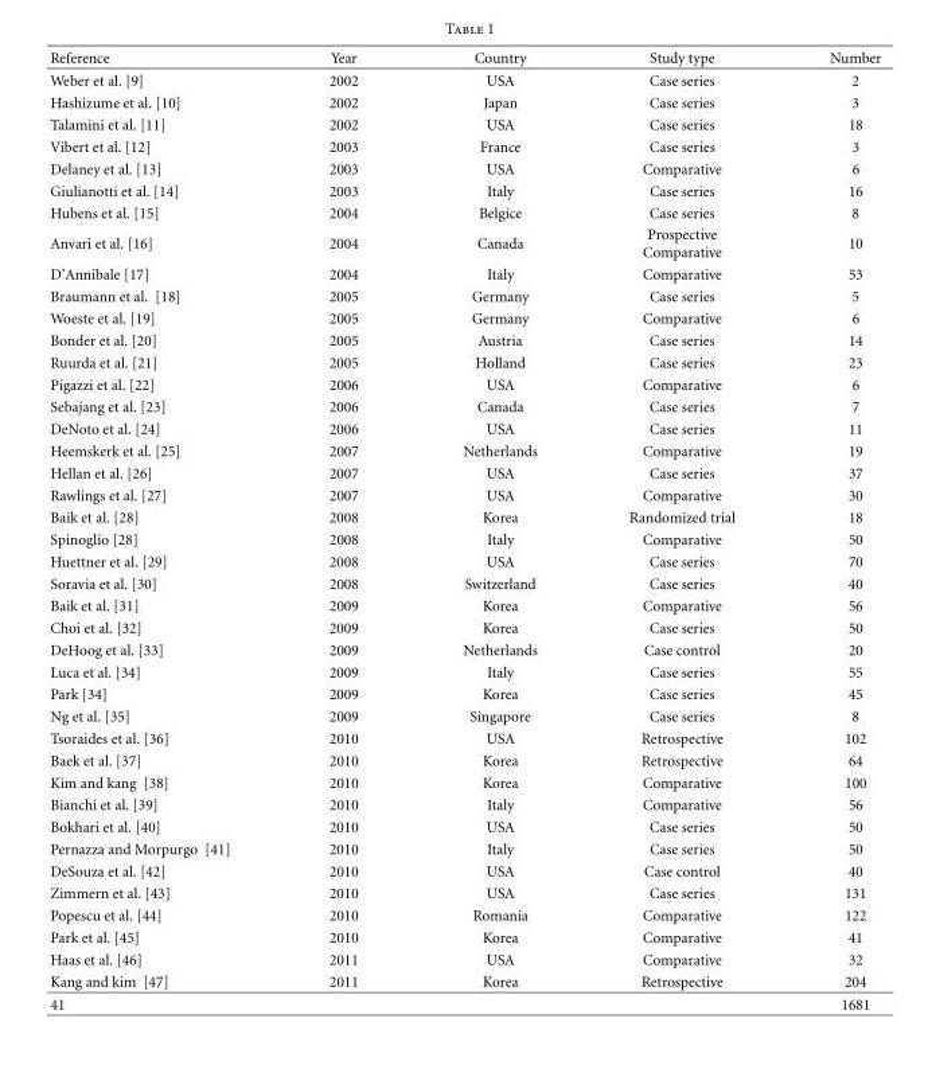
<table><thead><tr><td>Reference</td><td>Year</td><td>Country</td><td>Study type</td><td>Number</td></tr></thead><tbody><tr><td>Weber et al. [9]</td><td>2002</td><td>USA</td><td>Case series</td><td>2</td></tr><tr><td>Hashizume et al. [10]</td><td>2002</td><td>Japan</td><td>Case series</td><td>3</td></tr><tr><td>Talamini et al. [11]</td><td>2002</td><td>USA</td><td>Case series</td><td>18</td></tr><tr><td>Vibert et al. [12]</td><td>2003</td><td>France</td><td>Case series</td><td>3</td></tr><tr><td>Delaney et al. [13]</td><td>2003</td><td>USA</td><td>Comparative</td><td>6</td></tr><tr><td>Giulianotti et al. [14]</td><td>2003</td><td>Italy</td><td>Case series</td><td>16</td></tr><tr><td>Hubens et al. [15]</td><td>2004</td><td>Belgice</td><td>Case series</td><td>8</td></tr><tr><td>Anvari et al. [16]</td><td>2004</td><td>Canada</td><td>Prospective Comparative</td><td>10</td></tr><tr><td>D’Annibale [17]</td><td>2004</td><td>Italy</td><td>Comparative</td><td>53</td></tr><tr><td>Braumann et al. [18]</td><td>2005</td><td>Germany</td><td>Case series</td><td>5</td></tr><tr><td>Woeste et al. [19]</td><td>2005</td><td>Germany</td><td>Comparative</td><td>6</td></tr><tr><td>Bonder et al. [20]</td><td>2005</td><td>Austria</td><td>Case series</td><td>14</td></tr><tr><td>Ruurda et al. [21]</td><td>2005</td><td>Holland</td><td>Case series</td><td>23</td></tr><tr><td>Pigazzi et al. [22]</td><td>2006</td><td>USA</td><td>Comparative</td><td>6</td></tr><tr><td>Sebajang et al. [23]</td><td>2006</td><td>Canada</td><td>Case series</td><td>7</td></tr><tr><td>DeNoto et al. [24]</td><td>2006</td><td>USA</td><td>Case series</td><td>11</td></tr><tr><td>Heemskerk et al. [25]</td><td>2007</td><td>Netherlands</td><td>Comparative</td><td>19</td></tr><tr><td>Hellan et al. [26]</td><td>2007</td><td>USA</td><td>Case series</td><td>37</td></tr><tr><td>Rawlings et al. [27]</td><td>2007</td><td>USA</td><td>Comparative</td><td>30</td></tr><tr><td>Baik et al. [28]</td><td>2008</td><td>Korea</td><td>Randomized trial</td><td>18</td></tr><tr><td>Spinoglio [28]</td><td>2008</td><td>Italy</td><td>Comparative</td><td>50</td></tr><tr><td>Huettner et al. [29]</td><td>2008</td><td>USA</td><td>Case series</td><td>70</td></tr><tr><td>Soravia et al. [30]</td><td>2008</td><td>Switzerland</td><td>Case series</td><td>40</td></tr><tr><td>Baik et al. [31]</td><td>2009</td><td>Korea</td><td>Comparative</td><td>56</td></tr><tr><td>Choi et al. [32]</td><td>2009</td><td>Korea</td><td>Case series</td><td>50</td></tr><tr><td>DeHoog et al. [33]</td><td>2009</td><td>Netherlands</td><td>Case control</td><td>20</td></tr><tr><td>Luca et al. [34]</td><td>2009</td><td>Italy</td><td>Case series</td><td>55</td></tr><tr><td>Park [34]</td><td>2009</td><td>Korea</td><td>Case series</td><td>45</td></tr><tr><td>Ng et al. [35]</td><td>2009</td><td>Singapore</td><td>Case series</td><td>8</td></tr><tr><td>Tsoraides et al. [36]</td><td>2010</td><td>USA</td><td>Retrospective</td><td>102</td></tr><tr><td>Baek et al. [37]</td><td>2010</td><td>Korea</td><td>Retrospective</td><td>64</td></tr><tr><td>Kim and kang [38]</td><td>2010</td><td>Korea</td><td>Comparative</td><td>100</td></tr><tr><td>Bianchi et al. [39]</td><td>2010</td><td>Italy</td><td>Comparative</td><td>56</td></tr><tr><td>Bokhari et al. [40]</td><td>2010</td><td>USA</td><td>Case series</td><td>50</td></tr><tr><td>Pernazza and Morpurgo [41]</td><td>2010</td><td>Italy</td><td>Case series</td><td>50</td></tr><tr><td>DeSouza et al. [42]</td><td>2010</td><td>USA</td><td>Case control</td><td>40</td></tr><tr><td>Zimmern et al. [43]</td><td>2010</td><td>USA</td><td>Case series</td><td>131</td></tr><tr><td>Popescu et al. [44]</td><td>2010</td><td>Romania</td><td>Comparative</td><td>122</td></tr><tr><td>Park et al. [45]</td><td>2010</td><td>Korea</td><td>Comparative</td><td>41</td></tr><tr><td>Haas et al. [46]</td><td>2011</td><td>USA</td><td>Comparative</td><td>32</td></tr><tr><td>Kang and kim [47]</td><td>2011</td><td>Korea</td><td>Retrospective</td><td>204</td></tr><tr><td>41</td><td colspan="3"></td><td>1681</td></tr></tbody></table>